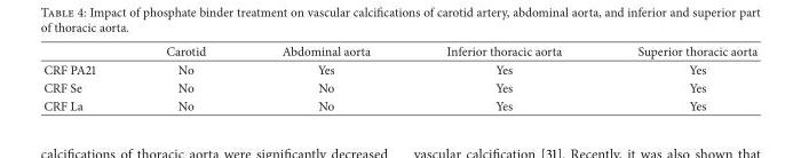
<table><thead><tr><td></td><td>Carotid</td><td>Abdominal aorta</td><td>Inferior thoracic aorta</td><td>Superior thoracic aorta</td></tr></thead><tbody><tr><td>CRF PA21</td><td>No</td><td>Yes</td><td>Yes</td><td>Yes</td></tr><tr><td>CRF Se</td><td>No</td><td>No</td><td>Yes</td><td>Yes</td></tr><tr><td>CRF La</td><td>No</td><td>No</td><td>Yes</td><td>Yes</td></tr></tbody></table>